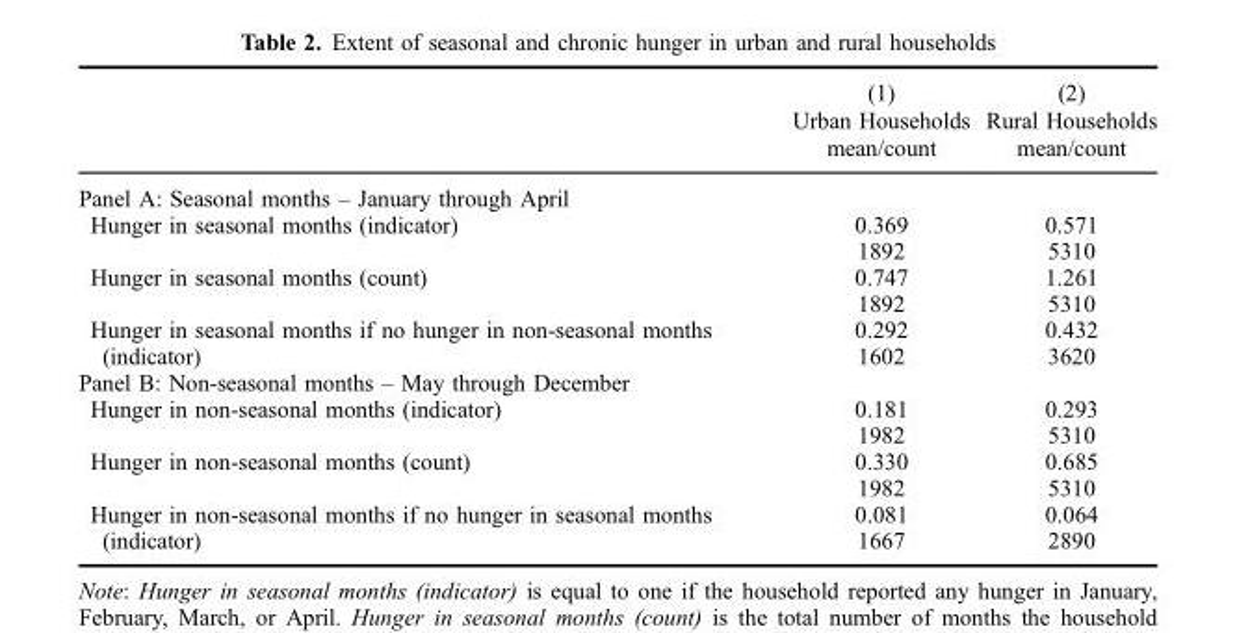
<table><thead><tr><td rowspan="3"></td><td rowspan="3">(1) Urban Households mean/count</td><td rowspan="3">(2) Rural Households mean/count</td></tr><tr></tr><tr></tr></thead><tbody><tr><td colspan="3">Panel A: Seasonal months – January through April</td></tr><tr><td rowspan="2">Hunger in seasonal months (indicator)</td><td>0.369</td><td>0.571</td></tr><tr><td>1892</td><td>5310</td></tr><tr><td rowspan="2">Hunger in seasonal months (count)</td><td>0.747</td><td>1.261</td></tr><tr><td>1892</td><td>5310</td></tr><tr><td rowspan="2">Hunger in seasonal months if no hunger in non-seasonal months (indicator)</td><td>0.292</td><td>0.432</td></tr><tr><td>1602</td><td>3620</td></tr><tr><td colspan="3">Panel B: Non-seasonal months – May through December</td></tr><tr><td rowspan="2">Hunger in non-seasonal months (indicator)</td><td>0.181</td><td>0.293</td></tr><tr><td>1982</td><td>5310</td></tr><tr><td rowspan="2">Hunger in non-seasonal months (count)</td><td>0.330</td><td>0.685</td></tr><tr><td>1982</td><td>5310</td></tr><tr><td rowspan="2">Hunger in non-seasonal months if no hunger in seasonal months (indicator)</td><td>0.081</td><td>0.064</td></tr><tr><td>1667</td><td>2890</td></tr></tbody></table>